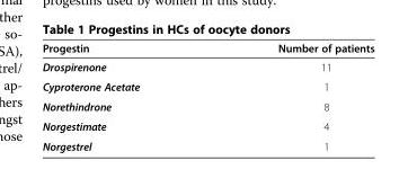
<table><thead><tr><td>Progestin</td><td>Number of patients</td></tr></thead><tbody><tr><td>Drospirenone</td><td>11</td></tr><tr><td>Cyproterone Acetate</td><td>1</td></tr><tr><td>Norethindrone</td><td>8</td></tr><tr><td>Norgestimate</td><td>4</td></tr><tr><td>Norgestrel</td><td>1</td></tr></tbody></table>